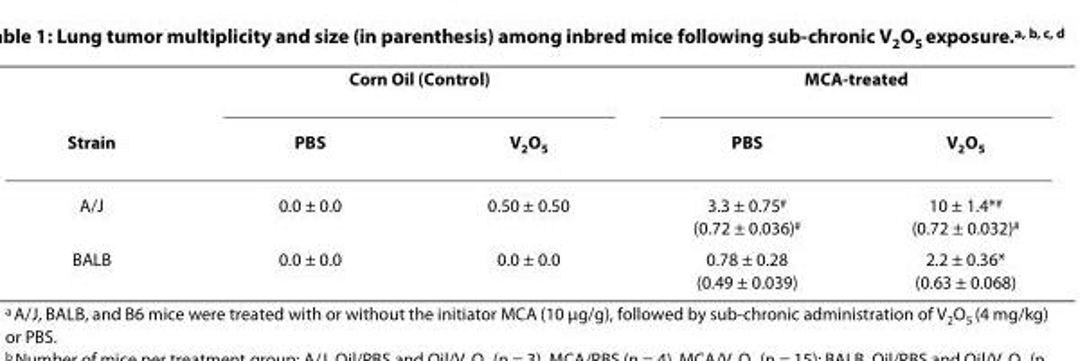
<table><thead><tr><td rowspan="2">Strain</td><td colspan="2">Corn Oil (Control)</td><td colspan="2">MCA-treated</td></tr><tr><td>PBS</td><td>V<sub>2</sub>O<sub>5</sub></td><td>PBS</td><td>V<sub>2</sub>O<sub>5</sub></td></tr></thead><tbody><tr><td>A/J</td><td>0.0 ± 0.0</td><td>0.50 ± 0.50</td><td>3.3 ± 0.75<sup>#</sup> (0.72 ± 0.036)<sup>#</sup></td><td>10 ± 1.4*<sup>#</sup> (0.72 ± 0.032)<sup>#</sup></td></tr><tr><td>BALB</td><td>0.0 ± 0.0</td><td>0.0 ± 0.0</td><td>0.78 ± 0.28 (0.49 ± 0.039)</td><td>2.2 ± 0.36* (0.63 ± 0.068)</td></tr></tbody></table>